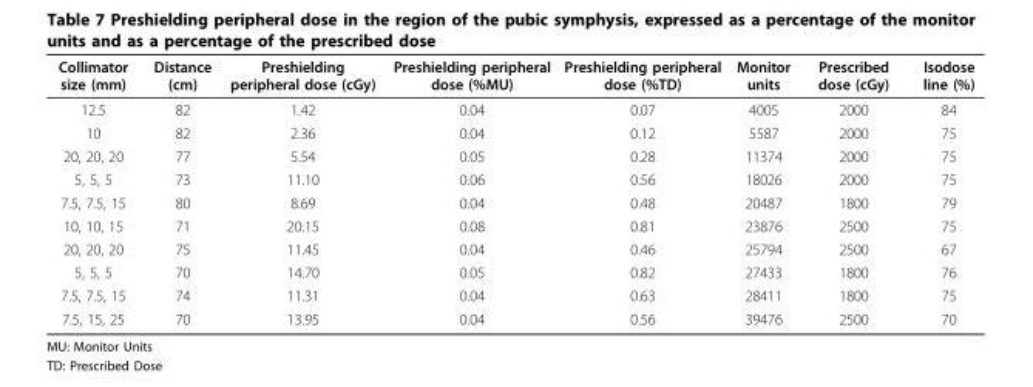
<table><thead><tr><td>Collimator size (mm)</td><td>Distance (cm)</td><td>Preshielding peripheral dose (cGy)</td><td>Preshielding peripheral dose (%MU)</td><td>Preshielding peripheral dose (%TD)</td><td>Monitor units</td><td>Prescribed dose (cGy)</td><td>Isodose line (%)</td></tr></thead><tbody><tr><td>12.5</td><td>82</td><td>1.42</td><td>0.04</td><td>0.07</td><td>4005</td><td>2000</td><td>84</td></tr><tr><td>10</td><td>82</td><td>2.36</td><td>0.04</td><td>0.12</td><td>5587</td><td>2000</td><td>75</td></tr><tr><td>20, 20, 20</td><td>77</td><td>5.54</td><td>0.05</td><td>0.28</td><td>11374</td><td>2000</td><td>75</td></tr><tr><td>5, 5, 5</td><td>73</td><td>11.10</td><td>0.06</td><td>0.56</td><td>18026</td><td>2000</td><td>75</td></tr><tr><td>7.5, 7.5, 15</td><td>80</td><td>8.69</td><td>0.04</td><td>0.48</td><td>20487</td><td>1800</td><td>79</td></tr><tr><td>10, 10, 15</td><td>71</td><td>20.15</td><td>0.08</td><td>0.81</td><td>23876</td><td>2500</td><td>75</td></tr><tr><td>20, 20, 20</td><td>75</td><td>11.45</td><td>0.04</td><td>0.46</td><td>25794</td><td>2500</td><td>67</td></tr><tr><td>5, 5, 5</td><td>70</td><td>14.70</td><td>0.05</td><td>0.82</td><td>27433</td><td>1800</td><td>76</td></tr><tr><td>7.5, 7.5, 15</td><td>74</td><td>11.31</td><td>0.04</td><td>0.63</td><td>28411</td><td>1800</td><td>75</td></tr><tr><td>7.5, 15, 25</td><td>70</td><td>13.95</td><td>0.04</td><td>0.56</td><td>39476</td><td>2500</td><td>70</td></tr></tbody></table>